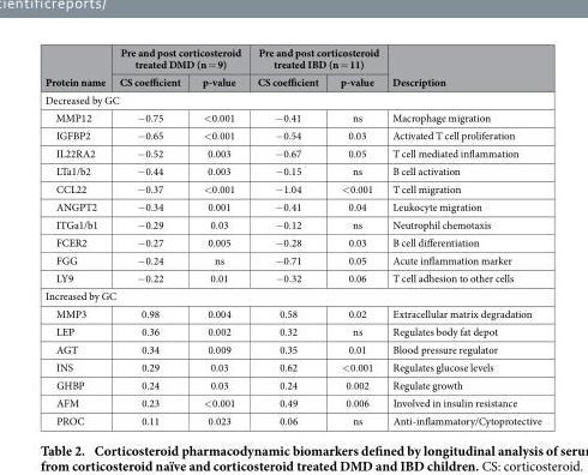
<table><thead><tr><td rowspan="2">Protein name</td><td colspan="2">Pre and post corticosteroid treated DMD (n = 9)</td><td colspan="2">Pre and post corticosteroid treated IBD (n = 11)</td><td rowspan="2">Description</td></tr><tr><td>CS coefficient</td><td>p-value</td><td>CS coefficient</td><td>p-value</td></tr></thead><tbody><tr><td colspan="6">Decreased by GC</td></tr><tr><td>MMP12</td><td>− 0.75</td><td>&lt; 0.001</td><td>− 0.41</td><td>ns</td><td>Macrophage migration</td></tr><tr><td>IGFBP2</td><td>− 0.65</td><td>&lt; 0.001</td><td>− 0.54</td><td>0.03</td><td>Activated T cell proliferation</td></tr><tr><td>IL22RA2</td><td>− 0.52</td><td>0.003</td><td>− 0.67</td><td>0.05</td><td>T cell mediated inflammation</td></tr><tr><td>LTa1/b2</td><td>− 0.44</td><td>0.003</td><td>− 0.15</td><td>ns</td><td>B cell activation</td></tr><tr><td>CCL22</td><td>− 0.37</td><td>&lt; 0.001</td><td>− 1.04</td><td>&lt; 0.001</td><td>T cell migration</td></tr><tr><td>ANGPT2</td><td>− 0.34</td><td>0.001</td><td>− 0.41</td><td>0.04</td><td>Leukocyte migration</td></tr><tr><td>ITGa1/b1</td><td>− 0.29</td><td>0.03</td><td>− 0.12</td><td>ns</td><td>Neutrophil chemotaxis</td></tr><tr><td>FCER2</td><td>− 0.27</td><td>0.005</td><td>− 0.28</td><td>0.03</td><td>B cell differentiation</td></tr><tr><td>FGG</td><td>− 0.24</td><td>ns</td><td>− 0.71</td><td>0.05</td><td>Acute inflammation marker</td></tr><tr><td>LY9</td><td>− 0.22</td><td>0.01</td><td>− 0.32</td><td>0.06</td><td>T cell adhesion to other cells</td></tr><tr><td colspan="6">Increased by GC</td></tr><tr><td>MMP3</td><td>0.98</td><td>0.004</td><td>0.58</td><td>0.02</td><td>Extracellular matrix degradation</td></tr><tr><td>LEP</td><td>0.36</td><td>0.002</td><td>0.32</td><td>ns</td><td>Regulates body fat depot</td></tr><tr><td>AGT</td><td>0.34</td><td>0.009</td><td>0.35</td><td>0.01</td><td>Blood pressure regulator</td></tr><tr><td>INS</td><td>0.29</td><td>0.03</td><td>0.62</td><td>&lt; 0.001</td><td>Regulates glucose levels</td></tr><tr><td>GHBP</td><td>0.24</td><td>0.03</td><td>0.24</td><td>0.002</td><td>Regulate growth</td></tr><tr><td>AFM</td><td>0.23</td><td>&lt; 0.001</td><td>0.49</td><td>0.006</td><td>Involved in insulin resistance</td></tr><tr><td>PROC</td><td>0.11</td><td>0.023</td><td>0.06</td><td>ns</td><td>Anti-inflammatory/Cytoprotective</td></tr></tbody></table>